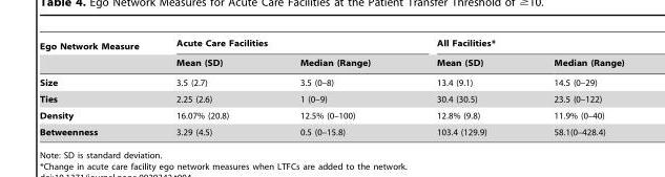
<table><thead><tr><td rowspan="2">Ego Network Measure</td><td colspan="2">Acute Care Facilities</td><td colspan="2">All Facilities*</td></tr><tr><td>Mean (SD)</td><td>Median (Range)</td><td>Mean (SD)</td><td>Median (Range)</td></tr></thead><tbody><tr><td>Size</td><td>3.5 (2.7)</td><td>3.5 (0–8)</td><td>13.4 (9.1)</td><td>14.5 (0–29)</td></tr><tr><td>Ties</td><td>2.25 (2.6)</td><td>1 (0–9)</td><td>30.4 (30.5)</td><td>23.5 (0–122)</td></tr><tr><td>Density</td><td>16.07% (20.8)</td><td>12.5% (0–100)</td><td>12.8% (9.8)</td><td>11.9% (0–40)</td></tr><tr><td>Betweenness</td><td>3.29 (4.5)</td><td>0.5 (0–15.8)</td><td>103.4 (129.9)</td><td>58.1(0–428.4)</td></tr></tbody></table>